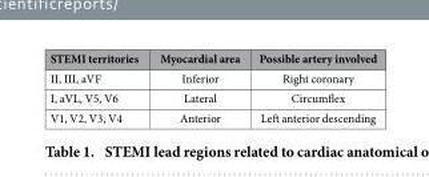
<table><thead><tr><td>STEMI territories</td><td>Myocardial area</td><td>Possible artery involved</td></tr></thead><tbody><tr><td>II, III, aVF</td><td>Inferior</td><td>Right coronary</td></tr><tr><td>I, aVL, V5, V6</td><td>Lateral</td><td>Circumflex</td></tr><tr><td>V1, V2, V3, V4</td><td>Anterior</td><td>Left anterior descending</td></tr></tbody></table>